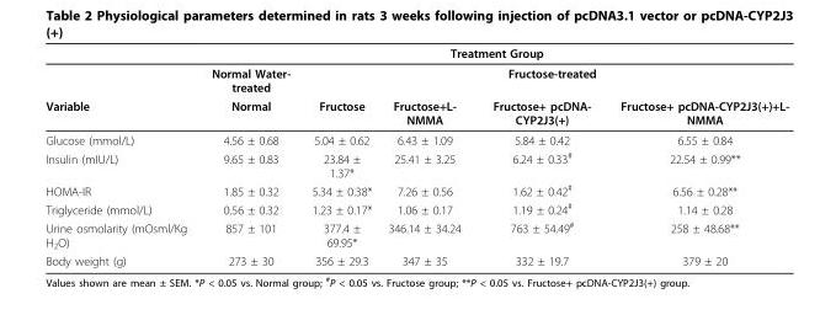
<table><thead><tr><td rowspan="3">Variable</td><td colspan="5">Treatment Group</td></tr><tr><td rowspan="2">Normal Water- treated Normal</td><td colspan="4">Fructose-treated</td></tr><tr><td>Fructose</td><td>Fructose+L- NMMA</td><td>Fructose+ pcDNA- CYP2J3(+)</td><td>Fructose+ pcDNA-CYP2J3(+)+L- NMMA</td></tr></thead><tbody><tr><td>Glucose (mmol/L)</td><td>4.56 ± 0.68</td><td>5.04 ± 0.62</td><td>6.43 ± 1.09</td><td>5.84 ± 0.42</td><td>6.55 ± 0.84</td></tr><tr><td>Insulin (mIU/L)</td><td>9.65 ± 0.83</td><td>23.84 ± 1.37*</td><td>25.41 ± 3.25</td><td>6.24 ± 0.33<sup>#</sup></td><td>22.54 ± 0.99**</td></tr><tr><td>HOMA-IR</td><td>1.85 ± 0.32</td><td>5.34 ± 0.38*</td><td>7.26 ± 0.56</td><td>1.62 ± 0.42<sup>#</sup></td><td>6.56 ± 0.28**</td></tr><tr><td>Triglyceride (mmol/L)</td><td>0.56 ± 0.32</td><td>1.23 ± 0.17*</td><td>1.06 ± 0.17</td><td>1.19 ± 0.24<sup>#</sup></td><td>1.14 ± 0.28</td></tr><tr><td>Urine osmolarity (mOsml/Kg H<sub>2</sub>O)</td><td>857 ± 101</td><td>377.4 ± 69.95*</td><td>346.14 ± 34.24</td><td>763 ± 54.49<sup>#</sup></td><td>258 ± 48.68**</td></tr><tr><td>Body weight (g)</td><td>273 ± 30</td><td>356 ± 29.3</td><td>347 ± 35</td><td>332 ± 19.7</td><td>379 ± 20</td></tr></tbody></table>